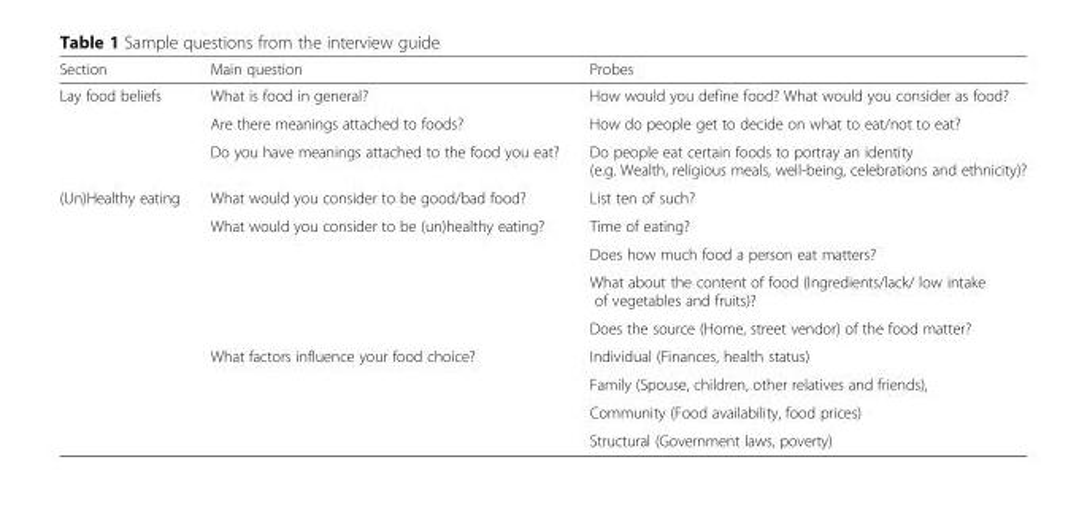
<table><thead><tr><td>Section</td><td>Main question</td><td>Probes</td></tr></thead><tbody><tr><td rowspan="3">Lay food beliefs</td><td>What is food in general?</td><td>How would you define food? What would you consider as food?</td></tr><tr><td>Are there meanings attached to foods?</td><td>How do people get to decide on what to eat/not to eat?</td></tr><tr><td>Do you have meanings attached to the food you eat?</td><td>Do people eat certain foods to portray an identity (e.g. Wealth, religious meals, well-being, celebrations and ethnicity)?</td></tr><tr><td rowspan="9">(Un)Healthy eating</td><td>What would you consider to be good/bad food?</td><td>List ten of such?</td></tr><tr><td rowspan="4">What would you consider to be (un)healthy eating?</td><td>Time of eating?</td></tr><tr><td>Does how much food a person eat matters?</td></tr><tr><td>What about the content of food (Ingredients/lack/ low intake of vegetables and fruits)?</td></tr><tr><td>Does the source (Home, street vendor) of the food matter?</td></tr><tr><td rowspan="4">What factors influence your food choice?</td><td>Individual (Finances, health status)</td></tr><tr><td>Family (Spouse, children, other relatives and friends),</td></tr><tr><td>Community (Food availability, food prices)</td></tr><tr><td>Structural (Government laws, poverty)</td></tr></tbody></table>